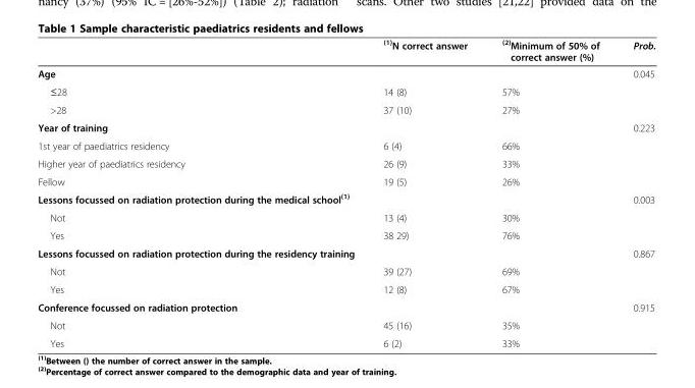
<table><thead><tr><td></td><td><sup>(1)</sup>N correct answer</td><td><sup>(2)</sup>Minimum of 50% of correct answer (%)</td><td>Prob.</td></tr></thead><tbody><tr><td>Age</td><td></td><td></td><td>0.045</td></tr><tr><td>≤28</td><td>14 (8)</td><td>57%</td><td></td></tr><tr><td>&gt;28</td><td>37 (10)</td><td>27%</td><td></td></tr><tr><td>Year of training</td><td></td><td></td><td>0.223</td></tr><tr><td>1st year of paediatrics residency</td><td>6 (4)</td><td>66%</td><td></td></tr><tr><td>Higher year of paediatrics residency</td><td>26 (9)</td><td>33%</td><td></td></tr><tr><td>Fellow</td><td>19 (5)</td><td>26%</td><td></td></tr><tr><td>Lessons focussed on radiation protection during the medical school<sup>(1)</sup></td><td></td><td></td><td>0.003</td></tr><tr><td>Not</td><td>13 (4)</td><td>30%</td><td></td></tr><tr><td>Yes</td><td>38 29)</td><td>76%</td><td></td></tr><tr><td>Lessons focussed on radiation protection during the residency training</td><td></td><td></td><td>0.867</td></tr><tr><td>Not</td><td>39 (27)</td><td>69%</td><td></td></tr><tr><td>Yes</td><td>12 (8)</td><td>67%</td><td></td></tr><tr><td>Conference focussed on radiation protection</td><td></td><td></td><td>0.915</td></tr><tr><td>Not</td><td>45 (16)</td><td>35%</td><td></td></tr><tr><td>Yes</td><td>6 (2)</td><td>33%</td><td></td></tr></tbody></table>